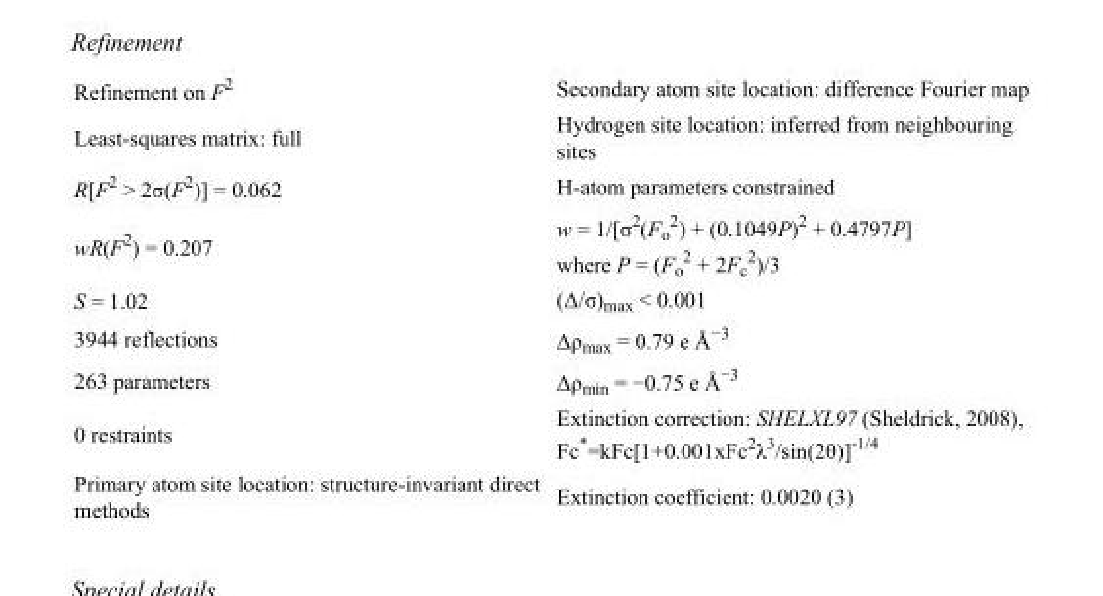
<table><tbody><tr><td>Refinement on F<sup>2</sup></td><td>Secondary atom site location: difference Fourier map</td></tr><tr><td>Least-squares matrix: full</td><td>Hydrogen site location: inferred from neighbouring sites</td></tr><tr><td>R[F<sup>2</sup> &gt; 2σ(F<sup>2</sup>)] = 0.062</td><td>H-atom parameters constrained</td></tr><tr><td>wR(F<sup>2</sup>) = 0.207</td><td>w = 1/[σ<sup>2</sup>(F<sub>o</sub> <sup>2</sup>) + (0.1049P)<sup>2</sup> + 0.4797P] where P = (F<sub>o</sub> <sup>2</sup> + 2F<sub>c</sub> <sup>2</sup>)/3</td></tr><tr><td>S = 1.02</td><td>(Δ/σ)<sub>max</sub> &lt; 0.001</td></tr><tr><td>3944 reflections</td><td>Δρ<sub>max</sub> = 0.79 e Å<sup>−3</sup></td></tr><tr><td>263 parameters</td><td>Δρ<sub>min</sub> = −0.75 e Å<sup>−3</sup></td></tr><tr><td>0 restraints</td><td>Extinction correction: SHELXL97 (Sheldrick, 2008), Fc*=kFc[1+0.001xFc<sup>2</sup>λ<sup>3</sup>/sin(2θ)]<sup>-1/4</sup></td></tr><tr><td>Primary atom site location: structure-invariant direct methods</td><td>Extinction coefficient: 0.0020 (3)</td></tr></tbody></table>